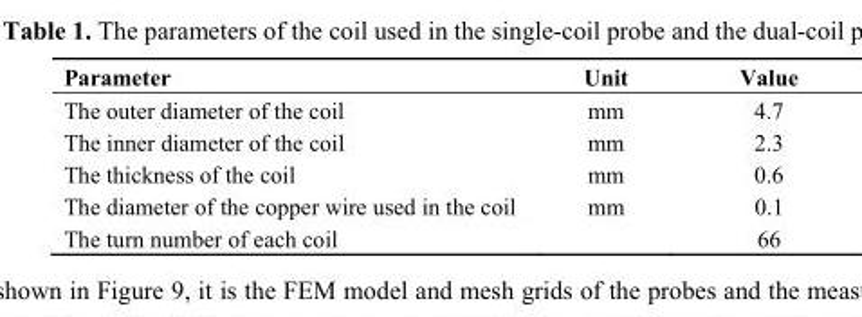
<table><thead><tr><td>Parameter</td><td>Unit</td><td>Value</td></tr></thead><tbody><tr><td>The outer diameter of the coil</td><td>mm</td><td>4.7</td></tr><tr><td>The inner diameter of the coil</td><td>mm</td><td>2.3</td></tr><tr><td>The thickness of the coil</td><td>mm</td><td>0.6</td></tr><tr><td>The diameter of the copper wire used in the coil</td><td>mm</td><td>0.1</td></tr><tr><td>The turn number of each coil</td><td></td><td>66</td></tr></tbody></table>